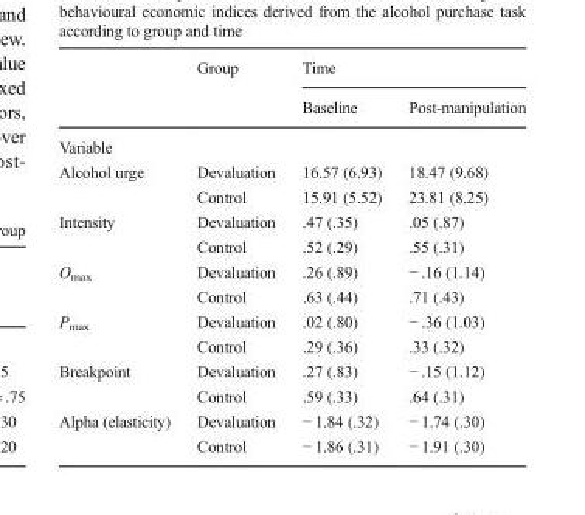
<table><thead><tr><td rowspan="2"></td><td rowspan="2">Group</td><td colspan="2">Time</td></tr><tr><td>Baseline</td><td>Post-manipulation</td></tr></thead><tbody><tr><td colspan="4">Variable</td></tr><tr><td rowspan="2">Alcohol urge</td><td>Devaluation</td><td>16.57 (6.93)</td><td>18.47 (9.68)</td></tr><tr><td>Control</td><td>15.91 (5.52)</td><td>23.81 (8.25)</td></tr><tr><td rowspan="2">Intensity</td><td>Devaluation</td><td>.47 (.35)</td><td>.05 (.87)</td></tr><tr><td>Control</td><td>.52 (.29)</td><td>.55 (.31)</td></tr><tr><td rowspan="2">O<sub>max</sub></td><td>Devaluation</td><td>.26 (.89)</td><td>− .16 (1.14)</td></tr><tr><td>Control</td><td>.63 (.44)</td><td>.71 (.43)</td></tr><tr><td rowspan="2">P<sub>max</sub></td><td>Devaluation</td><td>.02 (.80)</td><td>− .36 (1.03)</td></tr><tr><td>Control</td><td>.29 (.36)</td><td>.33 (.32)</td></tr><tr><td rowspan="2">Breakpoint</td><td>Devaluation</td><td>.27 (.83)</td><td>− .15 (1.12)</td></tr><tr><td>Control</td><td>.59 (.33)</td><td>.64 (.31)</td></tr><tr><td rowspan="2">Alpha (elasticity)</td><td>Devaluation</td><td>− 1.84 (.32)</td><td>− 1.74 (.30)</td></tr><tr><td>Control</td><td>− 1.86 (.31)</td><td>− 1.91 (.30)</td></tr></tbody></table>